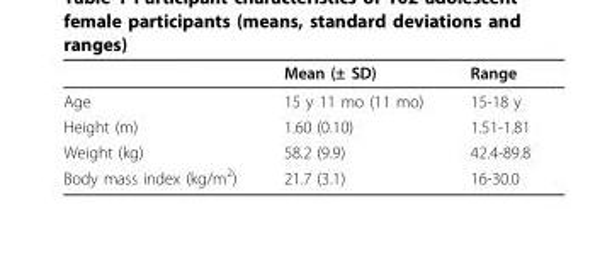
<table><thead><tr><td></td><td>Mean (± SD)</td><td>Range</td></tr></thead><tbody><tr><td>Age</td><td>15 y 11 mo (11 mo)</td><td>15-18 y</td></tr><tr><td>Height (m)</td><td>1.60 (0.10)</td><td>1.51-1.81</td></tr><tr><td>Weight (kg)</td><td>58.2 (9.9)</td><td>42.4-89.8</td></tr><tr><td>Body mass index (kg/m<sup>2</sup>)</td><td>21.7 (3.1)</td><td>16-30.0</td></tr></tbody></table>